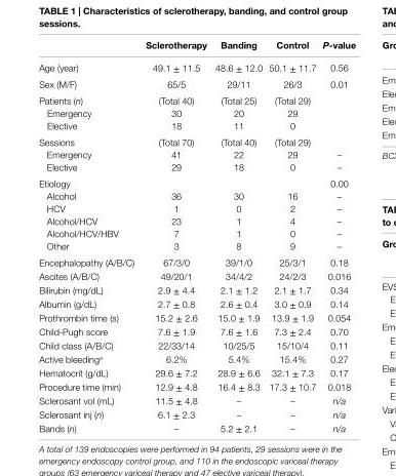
<table><thead><tr><td></td><td>sclerotherapy</td><td>Banding</td><td>control</td><td>P-value</td></tr></thead><tbody><tr><td>Age (year)</td><td>49.1 ± 11.5</td><td>48.6 ± 12.0</td><td>50.1 ± 11.7</td><td>0.56</td></tr><tr><td>Sex (M/F)</td><td>65/5</td><td>29/11</td><td>26/3</td><td>0.01</td></tr><tr><td>Patients (n)</td><td>(Total 40)</td><td>(Total 25)</td><td>(Total 29)</td><td></td></tr><tr><td>Emergency</td><td>30</td><td>20</td><td>29</td><td></td></tr><tr><td>Elective</td><td>18</td><td>11</td><td>0</td><td></td></tr><tr><td>Sessions</td><td>(Total 70)</td><td>(Total 40)</td><td>(Total 29)</td><td></td></tr><tr><td>Emergency</td><td>41</td><td>22</td><td>29</td><td>–</td></tr><tr><td>Elective</td><td>29</td><td>18</td><td>0</td><td>–</td></tr><tr><td>Etiology</td><td></td><td></td><td></td><td>0.00</td></tr><tr><td>Alcohol</td><td>36</td><td>30</td><td>16</td><td>–</td></tr><tr><td>HCV</td><td>1</td><td>0</td><td>2</td><td>–</td></tr><tr><td>Alcohol/HCV</td><td>23</td><td>1</td><td>4</td><td>–</td></tr><tr><td>Alcohol/HCV/HBV</td><td>7</td><td>1</td><td>0</td><td>–</td></tr><tr><td>Other</td><td>3</td><td>8</td><td>9</td><td>–</td></tr><tr><td>Encephalopathy (A/B/C)</td><td>67/3/0</td><td>39/1/0</td><td>25/3/1</td><td>0.18</td></tr><tr><td>Ascites (A/B/C)</td><td>49/20/1</td><td>34/4/2</td><td>24/2/3</td><td>0.016</td></tr><tr><td>Bilirubin (mg/dL)</td><td>2.9 ± 4.4</td><td>2.1 ± 1.2</td><td>2.1 ± 1.7</td><td>0.34</td></tr><tr><td>Albumin (g/dL)</td><td>2.7 ± 0.8</td><td>2.6 ± 0.4</td><td>3.0 ± 0.9</td><td>0.14</td></tr><tr><td>Prothrombin time (s)</td><td>15.2 ± 2.6</td><td>15.0 ± 1.9</td><td>13.9 ± 1.9</td><td>0.054</td></tr><tr><td>Child-Pugh score</td><td>7.6 ± 1.9</td><td>7.6 ± 1.6</td><td>7.3 ± 2.4</td><td>0.70</td></tr><tr><td>Child class (A/B/C)</td><td>22/33/14</td><td>10/25/5</td><td>15/10/4</td><td>0.11</td></tr><tr><td>Active bleeding<sup>a</sup></td><td>6.2%</td><td>5.4%</td><td>15.4%</td><td>0.27</td></tr><tr><td>Hematocrit (g/dL)</td><td>29.6 ± 7.2</td><td>28.9 ± 6.6</td><td>32.1 ± 7.3</td><td>0.17</td></tr><tr><td>Procedure time (min)</td><td>12.9 ± 4.8</td><td>16.4 ± 8.3</td><td>17.3 ± 10.7</td><td>0.018</td></tr><tr><td>Sclerosant vol (mL)</td><td>11.5 ± 4.8</td><td>–</td><td>–</td><td>n/a</td></tr><tr><td>Sclerosant inj (n)</td><td>6.1 ± 2.3</td><td>–</td><td>–</td><td>n/a</td></tr><tr><td>Bands (n)</td><td>–</td><td>5.2 ± 2.1</td><td>–</td><td>n/a</td></tr></tbody></table>